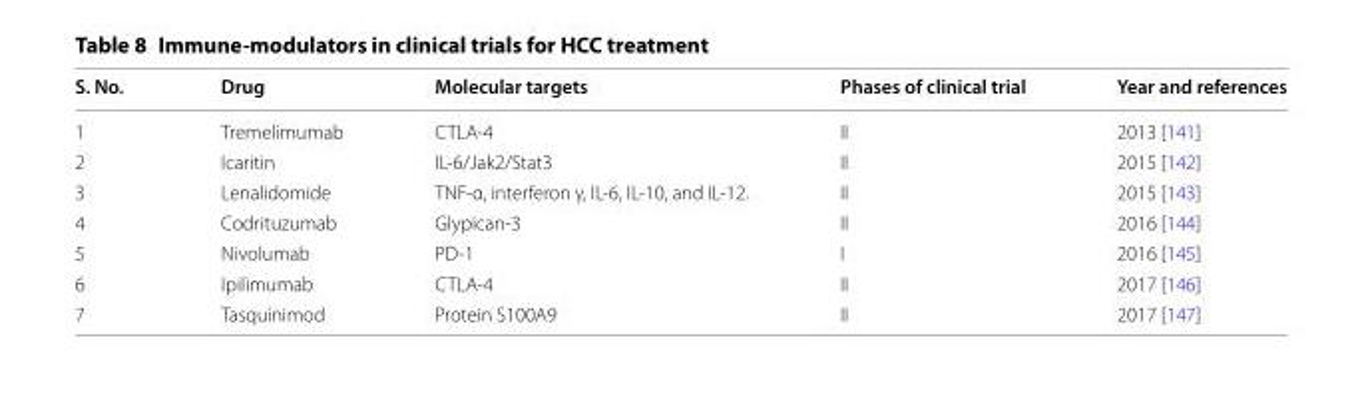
<table><thead><tr><td>S. No.</td><td>Drug</td><td>Molecular targets</td><td>Phases of clinical trial</td><td>Year and references</td></tr></thead><tbody><tr><td>1</td><td>Tremelimumab</td><td>CTLA‑4</td><td>II</td><td>2013 [141]</td></tr><tr><td>2</td><td>Icaritin</td><td>IL‑6/Jak2/Stat3</td><td>II</td><td>2015 [142]</td></tr><tr><td>3</td><td>Lenalidomide</td><td>TNF‑α, interferon γ, IL‑6, IL‑10, and IL‑12.</td><td>II</td><td>2015 [143]</td></tr><tr><td>4</td><td>Codrituzumab</td><td>Glypican‑3</td><td>II</td><td>2016 [144]</td></tr><tr><td>5</td><td>Nivolumab</td><td>PD‑1</td><td>I</td><td>2016 [145]</td></tr><tr><td>6</td><td>Ipilimumab</td><td>CTLA‑4</td><td>II</td><td>2017 [146]</td></tr><tr><td>7</td><td>Tasquinimod</td><td>Protein S100A9</td><td>II</td><td>2017 [147]</td></tr></tbody></table>